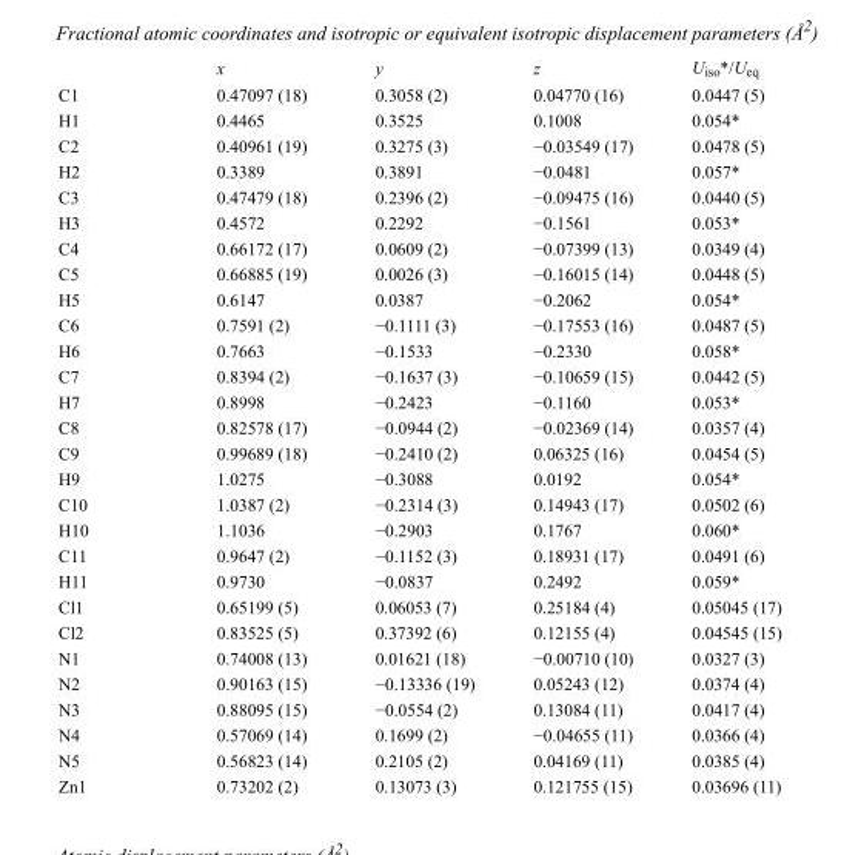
<table><thead><tr><td></td><td>x</td><td>y</td><td>z</td><td>U<sub>iso</sub>*/U<sub>eq</sub></td></tr></thead><tbody><tr><td>C1</td><td>0.47097 (18)</td><td>0.3058 (2)</td><td>0.04770 (16)</td><td>0.0447 (5)</td></tr><tr><td>H1</td><td>0.4465</td><td>0.3525</td><td>0.1008</td><td>0.054*</td></tr><tr><td>C2</td><td>0.40961 (19)</td><td>0.3275 (3)</td><td>−0.03549 (17)</td><td>0.0478 (5)</td></tr><tr><td>H2</td><td>0.3389</td><td>0.3891</td><td>−0.0481</td><td>0.057*</td></tr><tr><td>C3</td><td>0.47479 (18)</td><td>0.2396 (2)</td><td>−0.09475 (16)</td><td>0.0440 (5)</td></tr><tr><td>H3</td><td>0.4572</td><td>0.2292</td><td>−0.1561</td><td>0.053*</td></tr><tr><td>C4</td><td>0.66172 (17)</td><td>0.0609 (2)</td><td>−0.07399 (13)</td><td>0.0349 (4)</td></tr><tr><td>C5</td><td>0.66885 (19)</td><td>0.0026 (3)</td><td>−0.16015 (14)</td><td>0.0448 (5)</td></tr><tr><td>H5</td><td>0.6147</td><td>0.0387</td><td>−0.2062</td><td>0.054*</td></tr><tr><td>C6</td><td>0.7591 (2)</td><td>−0.1111 (3)</td><td>−0.17553 (16)</td><td>0.0487 (5)</td></tr><tr><td>H6</td><td>0.7663</td><td>−0.1533</td><td>−0.2330</td><td>0.058*</td></tr><tr><td>C7</td><td>0.8394 (2)</td><td>−0.1637 (3)</td><td>−0.10659 (15)</td><td>0.0442 (5)</td></tr><tr><td>H7</td><td>0.8998</td><td>−0.2423</td><td>−0.1160</td><td>0.053*</td></tr><tr><td>C8</td><td>0.82578 (17)</td><td>−0.0944 (2)</td><td>−0.02369 (14)</td><td>0.0357 (4)</td></tr><tr><td>C9</td><td>0.99689 (18)</td><td>−0.2410 (2)</td><td>0.06325 (16)</td><td>0.0454 (5)</td></tr><tr><td>H9</td><td>1.0275</td><td>−0.3088</td><td>0.0192</td><td>0.054*</td></tr><tr><td>C10</td><td>1.0387 (2)</td><td>−0.2314 (3)</td><td>0.14943 (17)</td><td>0.0502 (6)</td></tr><tr><td>H10</td><td>1.1036</td><td>−0.2903</td><td>0.1767</td><td>0.060*</td></tr><tr><td>C11</td><td>0.9647 (2)</td><td>−0.1152 (3)</td><td>0.18931 (17)</td><td>0.0491 (6)</td></tr><tr><td>H11</td><td>0.9730</td><td>−0.0837</td><td>0.2492</td><td>0.059*</td></tr><tr><td>Cl1</td><td>0.65199 (5)</td><td>0.06053 (7)</td><td>0.25184 (4)</td><td>0.05045 (17)</td></tr><tr><td>Cl2</td><td>0.83525 (5)</td><td>0.37392 (6)</td><td>0.12155 (4)</td><td>0.04545 (15)</td></tr><tr><td>N1</td><td>0.74008 (13)</td><td>0.01621 (18)</td><td>−0.00710 (10)</td><td>0.0327 (3)</td></tr><tr><td>N2</td><td>0.90163 (15)</td><td>−0.13336 (19)</td><td>0.05243 (12)</td><td>0.0374 (4)</td></tr><tr><td>N3</td><td>0.88095 (15)</td><td>−0.0554 (2)</td><td>0.13084 (11)</td><td>0.0417 (4)</td></tr><tr><td>N4</td><td>0.57069 (14)</td><td>0.1699 (2)</td><td>−0.04655 (11)</td><td>0.0366 (4)</td></tr><tr><td>N5</td><td>0.56823 (14)</td><td>0.2105 (2)</td><td>0.04169 (11)</td><td>0.0385 (4)</td></tr><tr><td>Zn1</td><td>0.73202 (2)</td><td>0.13073 (3)</td><td>0.121755 (15)</td><td>0.03696 (11)</td></tr></tbody></table>